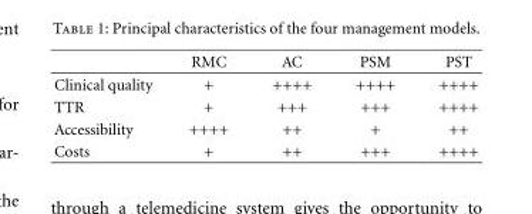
<table><thead><tr><td></td><td>RMC</td><td>AC</td><td>PSM</td><td>PST</td></tr></thead><tbody><tr><td>Clinical quality</td><td>+</td><td>++++</td><td>++++</td><td>++++</td></tr><tr><td>TTR</td><td>+</td><td>+++</td><td>+++</td><td>++++</td></tr><tr><td>Accessibility</td><td>++++</td><td>++</td><td>+</td><td>++</td></tr><tr><td>Costs</td><td>+</td><td>++</td><td>+++</td><td>++++</td></tr></tbody></table>